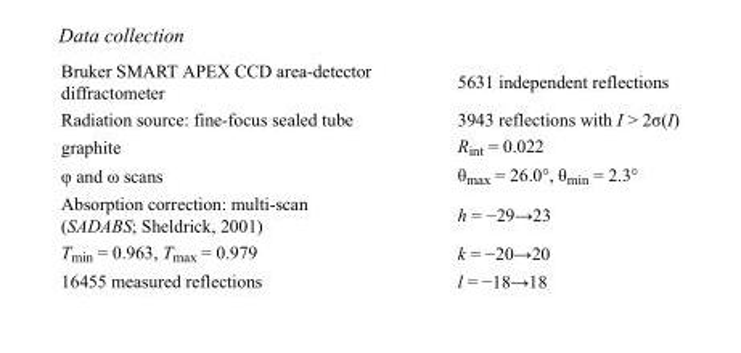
<table><tbody><tr><td>Bruker SMART APEX CCD area-detector diffractometer</td><td>5631 independent reflections</td></tr><tr><td>Radiation source: fine-focus sealed tube</td><td>3943 reflections with I &gt; 2σ(I)</td></tr><tr><td>graphite</td><td>R<sub>int</sub> = 0.022</td></tr><tr><td>φ and ω scans</td><td>θ<sub>max</sub> = 26.0°, θ<sub>min</sub> = 2.3°</td></tr><tr><td>Absorption correction: multi-scan (SADABS; Sheldrick, 2001)</td><td>h = −29→23</td></tr><tr><td>T<sub>min</sub> = 0.963, T<sub>max</sub> = 0.979</td><td>k = −20→20</td></tr><tr><td>16455 measured reflections</td><td>l = −18→18</td></tr></tbody></table>